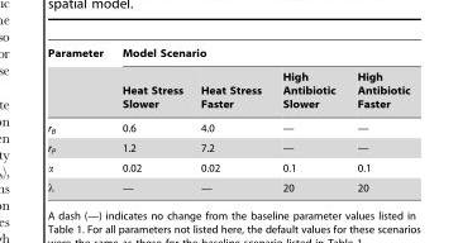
<table><thead><tr><td rowspan="2">Parameter</td><td colspan="4">Model Scenario</td></tr><tr><td>Heat Stress Slower</td><td>Heat Stress Faster</td><td>High Antibiotic Slower</td><td>High Antibiotic Faster</td></tr></thead><tbody><tr><td>r<sub>B</sub></td><td>0.6</td><td>4.0</td><td>—</td><td>—</td></tr><tr><td>r<sub>P</sub></td><td>1.2</td><td>7.2</td><td>—</td><td>—</td></tr><tr><td>α</td><td>0.02</td><td>0.02</td><td>0.1</td><td>0.1</td></tr><tr><td>λ</td><td>—</td><td>—</td><td>20</td><td>20</td></tr></tbody></table>